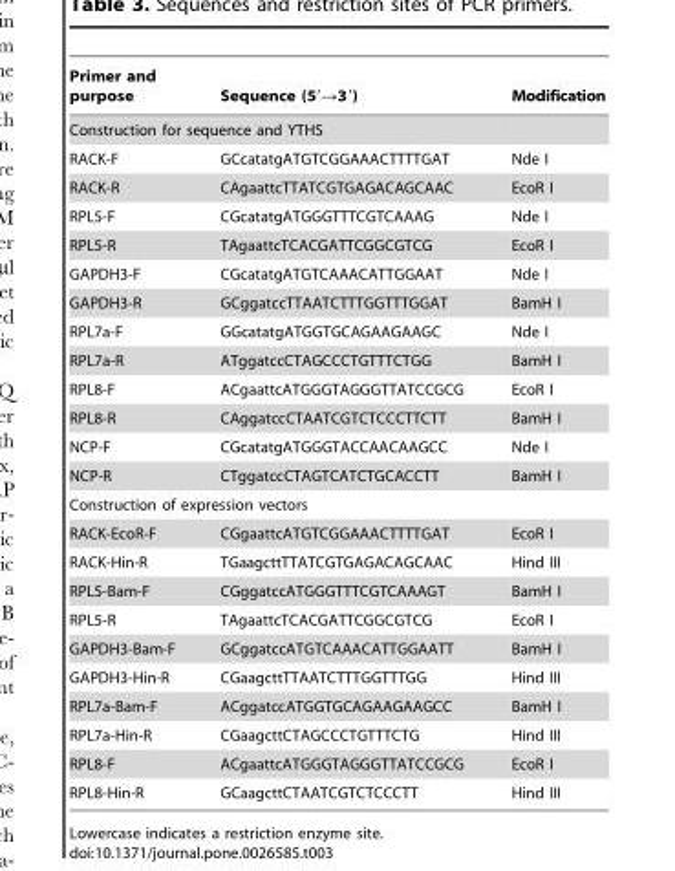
<table><thead><tr><td>Primer and purpose</td><td>Sequence (5′→3′)</td><td>Modification</td></tr></thead><tbody><tr><td colspan="3">Construction for sequence and YTHS</td></tr><tr><td>RACK-F</td><td>GCcatatgATGTCGGAAACTTTTGAT</td><td>Nde I</td></tr><tr><td>RACK-R</td><td>CAgaattcTTATCGTGAGACAGCAAC</td><td>EcoR I</td></tr><tr><td>RPL5-F</td><td>CGcatatgATGGGTTTCGTCAAAG</td><td>Nde I</td></tr><tr><td>RPL5-R</td><td>TAgaattcTCACGATTCGGCGTCG</td><td>EcoR I</td></tr><tr><td>GAPDH3-F</td><td>CGcatatgATGTCAAACATTGGAAT</td><td>Nde I</td></tr><tr><td>GAPDH3-R</td><td>GCggatccTTAATCTTTGGTTTGGAT</td><td>BamH I</td></tr><tr><td>RPL7a-F</td><td>GGcatatgATGGTGCAGAAGAAGC</td><td>Nde I</td></tr><tr><td>RPL7a-R</td><td>ATggatccCTAGCCCTGTTTCTGG</td><td>BamH I</td></tr><tr><td>RPL8-F</td><td>ACgaattcATGGGTAGGGTTATCCGCG</td><td>EcoR I</td></tr><tr><td>RPL8-R</td><td>CAggatccCTAATCGTCTCCCTTCTT</td><td>BamH I</td></tr><tr><td>NCP-F</td><td>CGcatatgATGGGTACCAACAAGCC</td><td>Nde I</td></tr><tr><td>NCP-R</td><td>CTggatccCTAGTCATCTGCACCTT</td><td>BamH I</td></tr><tr><td colspan="3">Construction of expression vectors</td></tr><tr><td>RACK-EcoR-F</td><td>CGgaattcATGTCGGAAACTTTTGAT</td><td>EcoR I</td></tr><tr><td>RACK-Hin-R</td><td>TGaagcttTTATCGTGAGACAGCAAC</td><td>Hind III</td></tr><tr><td>RPL5-Bam-F</td><td>CGggatccATGGGTTTCGTCAAAGT</td><td>BamH I</td></tr><tr><td>RPL5-R</td><td>TAgaattcTCACGATTCGGCGTCG</td><td>EcoR I</td></tr><tr><td>GAPDH3-Bam-F</td><td>GCggatccATGTCAAACATTGGAATT</td><td>BamH I</td></tr><tr><td>GAPDH3-Hin-R</td><td>CGaagcttTTAATCTTTGGTTTGG</td><td>Hind III</td></tr><tr><td>RPL7a-Bam-F</td><td>ACggatccATGGTGCAGAAGAAGCC</td><td>BamH I</td></tr><tr><td>RPL7a-Hin-R</td><td>CGaagcttCTAGCCCTGTTTCTG</td><td>Hind III</td></tr><tr><td>RPL8-F</td><td>ACgaattcATGGGTAGGGTTATCCGCG</td><td>EcoR I</td></tr><tr><td>RPL8-Hin-R</td><td>GCaagcttCTAATCGTCTCCCTT</td><td>Hind III</td></tr></tbody></table>